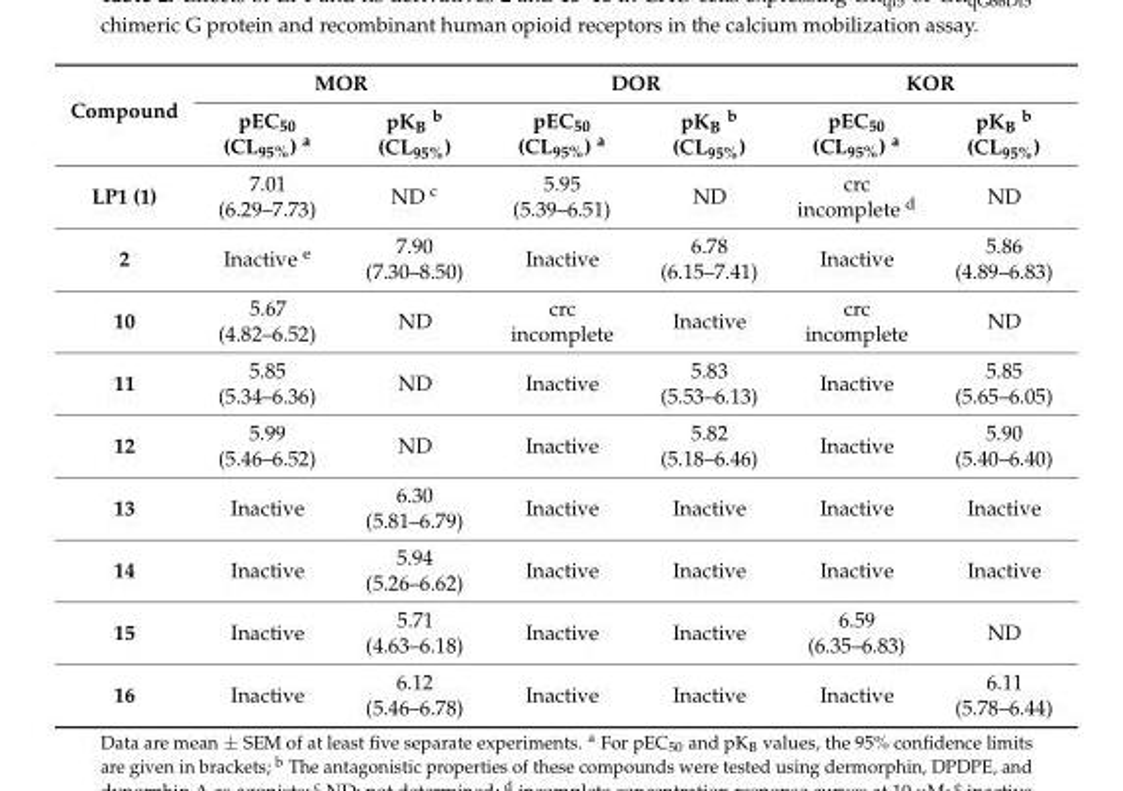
<table><thead><tr><td rowspan="2">Compound</td><td colspan="2">MOR</td><td colspan="2">DOR</td><td colspan="2">KOR</td></tr><tr><td>pEC50 (CL95%) a</td><td>pKB b (CL95%)</td><td>pEC50 (CL95%) a</td><td>pKB b (CL95%)</td><td>pEC50 (CL95%) a</td><td>pKB b (CL95%)</td></tr></thead><tbody><tr><td>LP1 (1)</td><td>7.01 (6.29–7.73)</td><td>ND c</td><td>5.95 (5.39–6.51)</td><td>ND</td><td>crc incomplete d</td><td>ND</td></tr><tr><td>2</td><td>Inactive e</td><td>7.90 (7.30–8.50)</td><td>Inactive</td><td>6.78 (6.15–7.41)</td><td>Inactive</td><td>5.86 (4.89–6.83)</td></tr><tr><td>10</td><td>5.67 (4.82–6.52)</td><td>ND</td><td>crc incomplete</td><td>Inactive</td><td>crc incomplete</td><td>ND</td></tr><tr><td>11</td><td>5.85 (5.34–6.36)</td><td>ND</td><td>Inactive</td><td>5.83 (5.53–6.13)</td><td>Inactive</td><td>5.85 (5.65–6.05)</td></tr><tr><td>12</td><td>5.99 (5.46–6.52)</td><td>ND</td><td>Inactive</td><td>5.82 (5.18–6.46)</td><td>Inactive</td><td>5.90 (5.40–6.40)</td></tr><tr><td>13</td><td>Inactive</td><td>6.30 (5.81–6.79)</td><td>Inactive</td><td>Inactive</td><td>Inactive</td><td>Inactive</td></tr><tr><td>14</td><td>Inactive</td><td>5.94 (5.26–6.62)</td><td>Inactive</td><td>Inactive</td><td>Inactive</td><td>Inactive</td></tr><tr><td>15</td><td>Inactive</td><td>5.71 (4.63–6.18)</td><td>Inactive</td><td>Inactive</td><td>6.59 (6.35–6.83)</td><td>ND</td></tr><tr><td>16</td><td>Inactive</td><td>6.12 (5.46–6.78)</td><td>Inactive</td><td>Inactive</td><td>Inactive</td><td>6.11 (5.78–6.44)</td></tr></tbody></table>